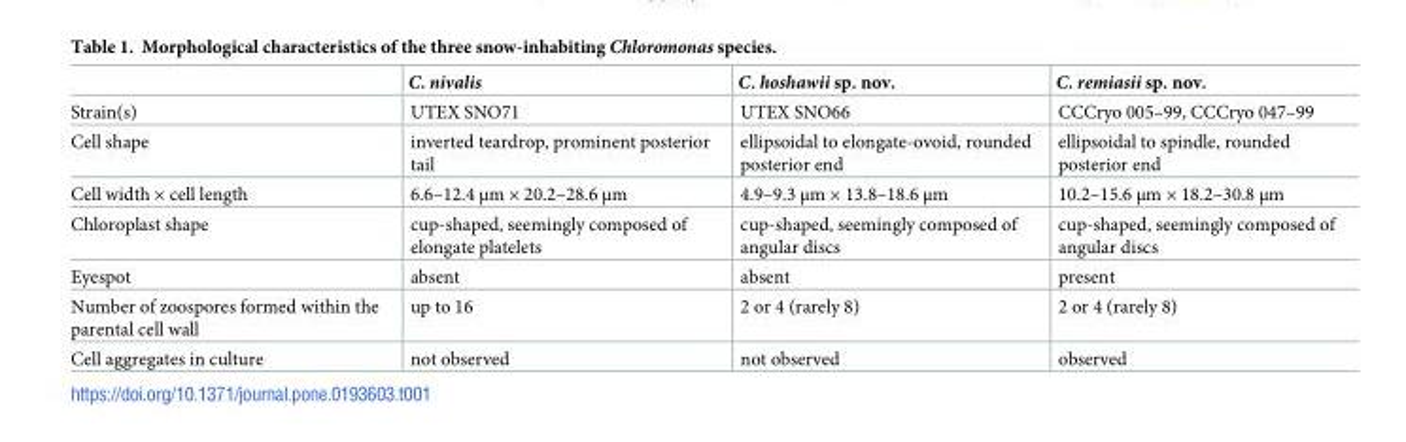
<table><thead><tr><td></td><td>C. nivalis</td><td>C. hoshawii sp. nov.</td><td>C. remiasii sp. nov.</td></tr></thead><tbody><tr><td>Strain(s)</td><td>UTEX SNO71</td><td>UTEX SNO66</td><td>CCCryo 005–99, CCCryo 047–99</td></tr><tr><td>Cell shape</td><td>inverted teardrop, prominent posterior tail</td><td>ellipsoidal to elongate-ovoid, rounded posterior end</td><td>ellipsoidal to spindle, rounded posterior end</td></tr><tr><td>Cell width × cell length</td><td>6.6–12.4 μm × 20.2–28.6 μm</td><td>4.9–9.3 μm × 13.8–18.6 μm</td><td>10.2–15.6 μm × 18.2–30.8 μm</td></tr><tr><td>Chloroplast shape</td><td>cup-shaped, seemingly composed of elongate platelets</td><td>cup-shaped, seemingly composed of angular discs</td><td>cup-shaped, seemingly composed of angular discs</td></tr><tr><td>Eyespot</td><td>absent</td><td>absent</td><td>present</td></tr><tr><td>Number of zoospores formed within the parental cell wall</td><td>up to 16</td><td>2 or 4 (rarely 8)</td><td>2 or 4 (rarely 8)</td></tr><tr><td>Cell aggregates in culture</td><td>not observed</td><td>not observed</td><td>observed</td></tr></tbody></table>